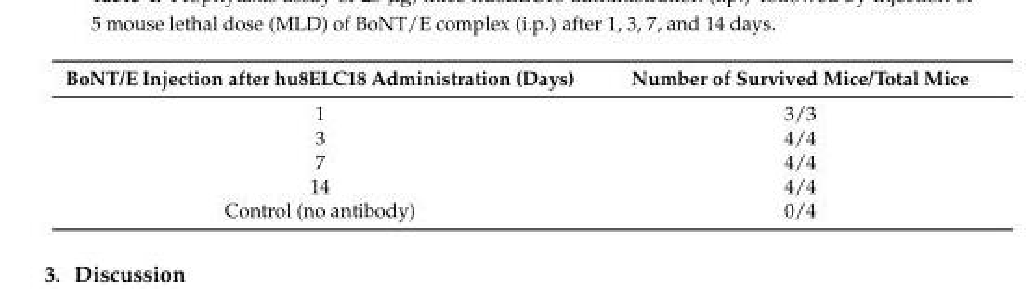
<table><thead><tr><td>BoNT/E Injection after hu8ELC18 Administration (Days)</td><td>Number of Survived Mice/Total Mice</td></tr></thead><tbody><tr><td>1</td><td>3/3</td></tr><tr><td>3</td><td>4/4</td></tr><tr><td>7</td><td>4/4</td></tr><tr><td>14</td><td>4/4</td></tr><tr><td>Control (no antibody)</td><td>0/4</td></tr></tbody></table>